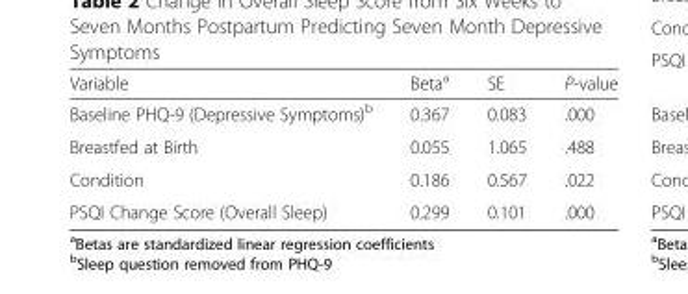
<table><thead><tr><td>Variable</td><td>Beta<sup>a</sup></td><td>SE</td><td>P-value</td></tr></thead><tbody><tr><td>Baseline PHQ-9 (Depressive Symptoms)<sup>b</sup></td><td>0.367</td><td>0.083</td><td>.000</td></tr><tr><td>Breastfed at Birth</td><td>0.055</td><td>1.065</td><td>.488</td></tr><tr><td>Condition</td><td>0.186</td><td>0.567</td><td>.022</td></tr><tr><td>PSQI Change Score (Overall Sleep)</td><td>0.299</td><td>0.101</td><td>.000</td></tr></tbody></table>